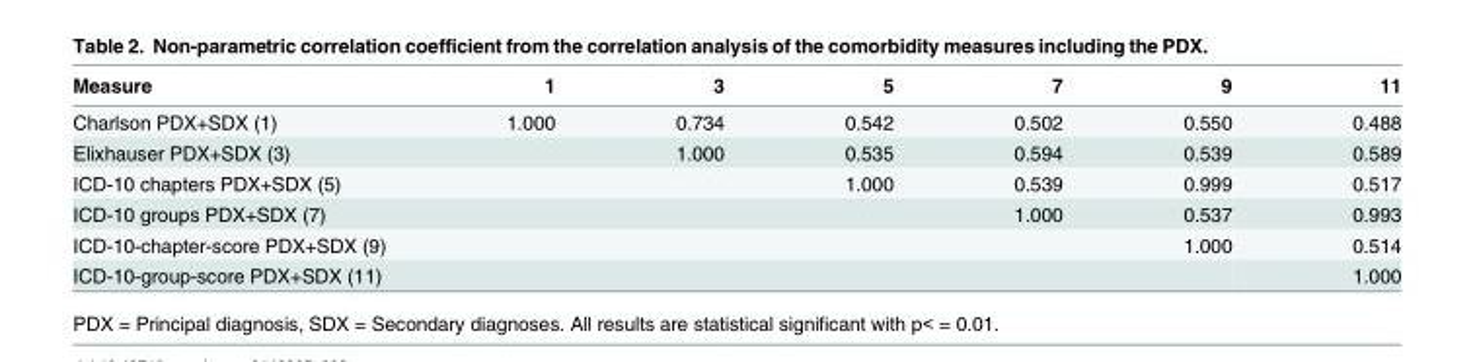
<table><thead><tr><td>Measure</td><td>1</td><td>3</td><td>5</td><td>7</td><td>9</td><td>11</td></tr></thead><tbody><tr><td>Charlson PDX+SDX (1)</td><td>1.000</td><td>0.734</td><td>0.542</td><td>0.502</td><td>0.550</td><td>0.488</td></tr><tr><td>Elixhauser PDX+SDX (3)</td><td></td><td>1.000</td><td>0.535</td><td>0.594</td><td>0.539</td><td>0.589</td></tr><tr><td>ICD-10 chapters PDX+SDX (5)</td><td></td><td></td><td>1.000</td><td>0.539</td><td>0.999</td><td>0.517</td></tr><tr><td>ICD-10 groups PDX+SDX (7)</td><td></td><td></td><td></td><td>1.000</td><td>0.537</td><td>0.993</td></tr><tr><td>ICD-10-chapter-score PDX+SDX (9)</td><td></td><td></td><td></td><td></td><td>1.000</td><td>0.514</td></tr><tr><td>ICD-10-group-score PDX+SDX (11)</td><td></td><td></td><td></td><td></td><td></td><td>1.000</td></tr></tbody></table>